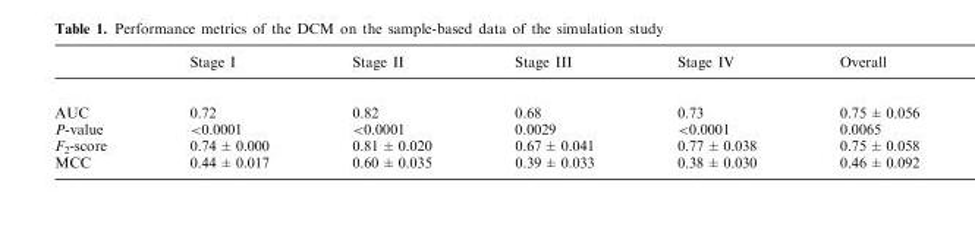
<table><thead><tr><td></td><td>Stage I</td><td>Stage II</td><td>Stage III</td><td>Stage IV</td><td>Overall</td></tr></thead><tbody><tr><td>AUC</td><td>0.72</td><td>0.82</td><td>0.68</td><td>0.73</td><td>0.75 ± 0.056</td></tr><tr><td>P-value</td><td>&lt;0.0001</td><td>&lt;0.0001</td><td>0.0029</td><td>&lt;0.0001</td><td>0.0065</td></tr><tr><td>F<sub>2</sub>-score</td><td>0.74 ± 0.000</td><td>0.81 ± 0.020</td><td>0.67 ± 0.041</td><td>0.77 ± 0.038</td><td>0.75 ± 0.058</td></tr><tr><td>MCC</td><td>0.44 ± 0.017</td><td>0.60 ± 0.035</td><td>0.39 ± 0.033</td><td>0.38 ± 0.030</td><td>0.46 ± 0.092</td></tr></tbody></table>